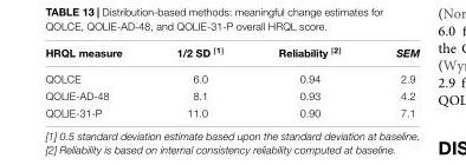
<table><thead><tr><td>HRQL measure</td><td>1/2 SD <sup>[1]</sup></td><td>Reliability <sup>[2]</sup></td><td>SEM</td></tr></thead><tbody><tr><td>QOLCE</td><td>6.0</td><td>0.94</td><td>2.9</td></tr><tr><td>QOLIE-AD-48</td><td>8.1</td><td>0.93</td><td>4.2</td></tr><tr><td>QOLIE-31-P</td><td>11.0</td><td>0.90</td><td>7.1</td></tr></tbody></table>